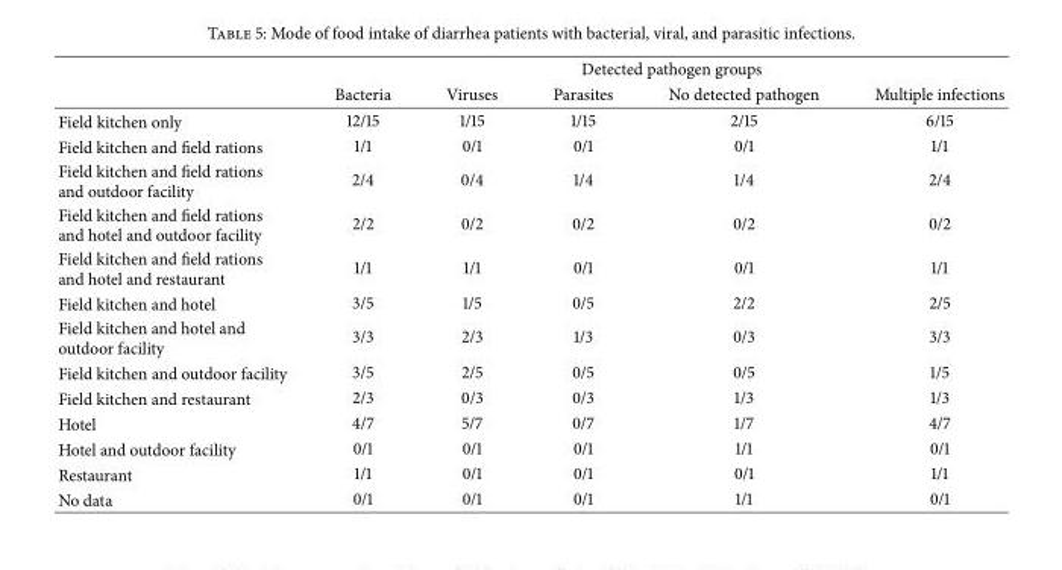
<table><thead><tr><td rowspan="2"></td><td colspan="5">Detected pathogen groups</td></tr><tr><td>Bacteria</td><td>Viruses</td><td>Parasites</td><td>No detected pathogen</td><td>Multiple infections</td></tr></thead><tbody><tr><td>Field kitchen only</td><td>12/15</td><td>1/15</td><td>1/15</td><td>2/15</td><td>6/15</td></tr><tr><td>Field kitchen and field rations</td><td>1/1</td><td>0/1</td><td>0/1</td><td>0/1</td><td>1/1</td></tr><tr><td>Field kitchen and field rations and outdoor facility</td><td>2/4</td><td>0/4</td><td>1/4</td><td>1/4</td><td>2/4</td></tr><tr><td>Field kitchen and field rations and hotel and outdoor facility</td><td>2/2</td><td>0/2</td><td>0/2</td><td>0/2</td><td>0/2</td></tr><tr><td>Field kitchen and field rations and hotel and restaurant</td><td>1/1</td><td>1/1</td><td>0/1</td><td>0/1</td><td>1/1</td></tr><tr><td>Field kitchen and hotel</td><td>3/5</td><td>1/5</td><td>0/5</td><td>2/2</td><td>2/5</td></tr><tr><td>Field kitchen and hotel and outdoor facility</td><td>3/3</td><td>2/3</td><td>1/3</td><td>0/3</td><td>3/3</td></tr><tr><td>Field kitchen and outdoor facility</td><td>3/5</td><td>2/5</td><td>0/5</td><td>0/5</td><td>1/5</td></tr><tr><td>Field kitchen and restaurant</td><td>2/3</td><td>0/3</td><td>0/3</td><td>1/3</td><td>1/3</td></tr><tr><td>Hotel</td><td>4/7</td><td>5/7</td><td>0/7</td><td>1/7</td><td>4/7</td></tr><tr><td>Hotel and outdoor facility</td><td>0/1</td><td>0/1</td><td>0/1</td><td>1/1</td><td>0/1</td></tr><tr><td>Restaurant</td><td>1/1</td><td>0/1</td><td>0/1</td><td>0/1</td><td>1/1</td></tr><tr><td>No data</td><td>0/1</td><td>0/1</td><td>0/1</td><td>1/1</td><td>0/1</td></tr></tbody></table>